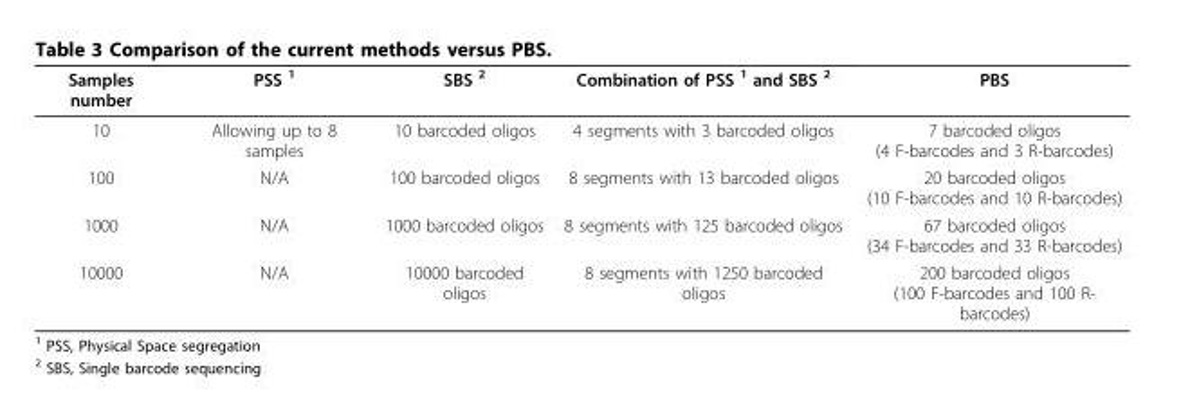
<table><thead><tr><td>Samples number</td><td>PSS <sup>1</sup></td><td>SBS <sup>2</sup></td><td>Combination of PSS <sup>1</sup> and SBS <sup>2</sup></td><td>PBS</td></tr></thead><tbody><tr><td>10</td><td>Allowing up to 8 samples</td><td>10 barcoded oligos</td><td>4 segments with 3 barcoded oligos</td><td>7 barcoded oligos (4 F-barcodes and 3 R-barcodes)</td></tr><tr><td>100</td><td>N/A</td><td>100 barcoded oligos</td><td>8 segments with 13 barcoded oligos</td><td>20 barcoded oligos (10 F-barcodes and 10 R-barcodes)</td></tr><tr><td>1000</td><td>N/A</td><td>1000 barcoded oligos</td><td>8 segments with 125 barcoded oligos</td><td>67 barcoded oligos (34 F-barcodes and 33 R-barcodes)</td></tr><tr><td>10000</td><td>N/A</td><td>10000 barcoded oligos</td><td>8 segments with 1250 barcoded oligos</td><td>200 barcoded oligos (100 F-barcodes and 100 R- barcodes)</td></tr></tbody></table>